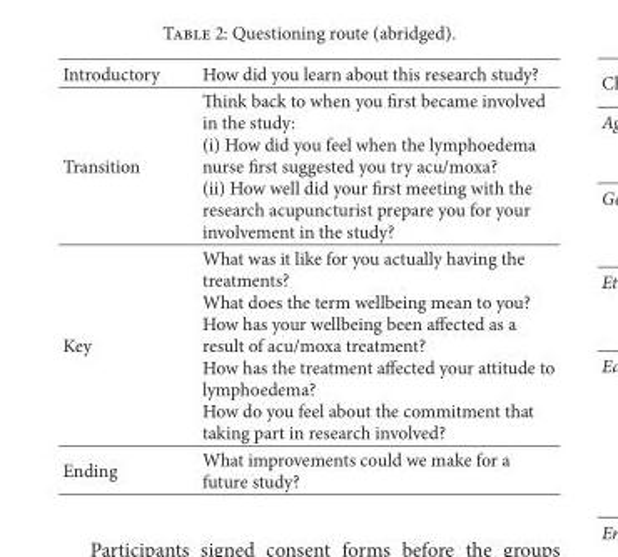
<table><thead><tr><td>Introductory</td><td>How did you learn about this research study?</td></tr></thead><tbody><tr><td>Transition</td><td>Think back to when you first became involved in the study: (i) How did you feel when the lymphoedema nurse first suggested you try acu/moxa? (ii) How well did your first meeting with the research acupuncturist prepare you for your involvement in the study?</td></tr><tr><td>Key</td><td>What was it like for you actually having the treatments? What does the term wellbeing mean to you? How has your wellbeing been affected as a result of acu/moxa treatment? How has the treatment affected your attitude to lymphoedema? How do you feel about the commitment that taking part in research involved?</td></tr><tr><td>Ending</td><td>What improvements could we make for a future study?</td></tr></tbody></table>